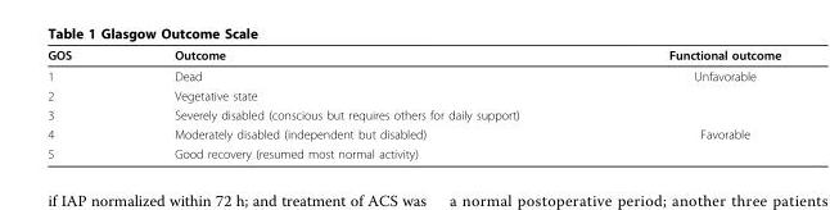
<table><thead><tr><td>GOS</td><td>Outcome</td><td>Functional outcome</td></tr></thead><tbody><tr><td>1</td><td>Dead</td><td>Unfavorable</td></tr><tr><td>2</td><td>Vegetative state</td><td></td></tr><tr><td>3</td><td>Severely disabled (conscious but requires others for daily support)</td><td></td></tr><tr><td>4</td><td>Moderately disabled (independent but disabled)</td><td>Favorable</td></tr><tr><td>5</td><td>Good recovery (resumed most normal activity)</td><td></td></tr></tbody></table>